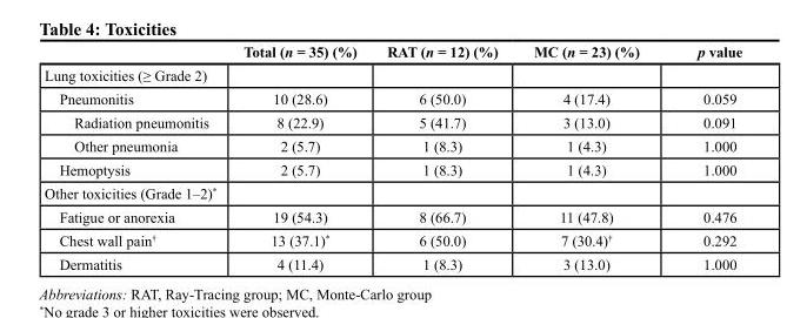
<table><thead><tr><td></td><td>Total (n = 35) (%)</td><td>RAT (n = 12) (%)</td><td>MC (n = 23) (%)</td><td>p value</td></tr></thead><tbody><tr><td colspan="5">Lung toxicities (≥ Grade 2)</td></tr><tr><td>Pneumonitis</td><td>10 (28.6)</td><td>6 (50.0)</td><td>4 (17.4)</td><td>0.059</td></tr><tr><td>Radiation pneumonitis</td><td>8 (22.9)</td><td>5 (41.7)</td><td>3 (13.0)</td><td>0.091</td></tr><tr><td>Other pneumonia</td><td>2 (5.7)</td><td>1 (8.3)</td><td>1 (4.3)</td><td>1.000</td></tr><tr><td>Hemoptysis</td><td>2 (5.7)</td><td>1 (8.3)</td><td>1 (4.3)</td><td>1.000</td></tr><tr><td colspan="5">Other toxicities (Grade 1–2)*</td></tr><tr><td>Fatigue or anorexia</td><td>19 (54.3)</td><td>8 (66.7)</td><td>11 (47.8)</td><td>0.476</td></tr><tr><td>Chest wall pain<sup>†</sup></td><td>13 (37.1)*</td><td>6 (50.0)</td><td>7 (30.4)<sup>†</sup></td><td>0.292</td></tr><tr><td>Dermatitis</td><td>4 (11.4)</td><td>1 (8.3)</td><td>3 (13.0)</td><td>1.000</td></tr></tbody></table>